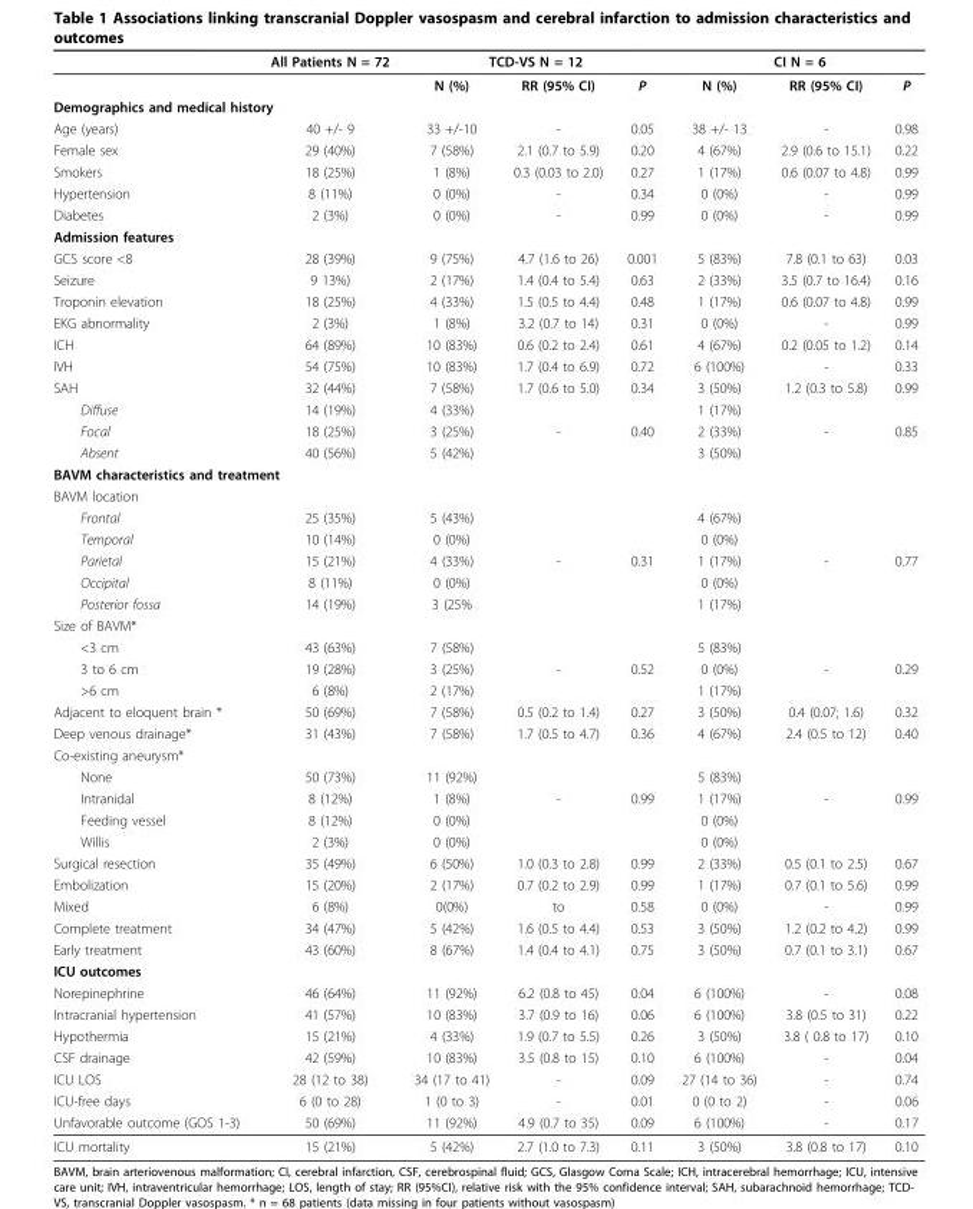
<table><thead><tr><td rowspan="2"></td><td rowspan="2">All Patients N = 72</td><td colspan="3">TCD-VS N = 12</td><td colspan="3">CI N = 6</td></tr><tr><td>N (%)</td><td>RR (95% CI)</td><td>P</td><td>N (%)</td><td>RR (95% CI)</td><td>P</td></tr></thead><tbody><tr><td colspan="8">Demographics and medical history</td></tr><tr><td>Age (years)</td><td>40 +/- 9</td><td>33 +/-10</td><td>-</td><td>0.05</td><td>38 +/- 13</td><td>-</td><td>0.98</td></tr><tr><td>Female sex</td><td>29 (40%)</td><td>7 (58%)</td><td>2.1 (0.7 to 5.9)</td><td>0.20</td><td>4 (67%)</td><td>2.9 (0.6 to 15.1)</td><td>0.22</td></tr><tr><td>Smokers</td><td>18 (25%)</td><td>1 (8%)</td><td>0.3 (0.03 to 2.0)</td><td>0.27</td><td>1 (17%)</td><td>0.6 (0.07 to 4.8)</td><td>0.99</td></tr><tr><td>Hypertension</td><td>8 (11%)</td><td>0 (0%)</td><td>-</td><td>0.34</td><td>0 (0%)</td><td>-</td><td>0.99</td></tr><tr><td>Diabetes</td><td>2 (3%)</td><td>0 (0%)</td><td>-</td><td>0.99</td><td>0 (0%)</td><td>-</td><td>0.99</td></tr><tr><td colspan="8">Admission features</td></tr><tr><td>GCS score &lt;8</td><td>28 (39%)</td><td>9 (75%)</td><td>4.7 (1.6 to 26)</td><td>0.001</td><td>5 (83%)</td><td>7.8 (0.1 to 63)</td><td>0.03</td></tr><tr><td>Seizure</td><td>9 13%)</td><td>2 (17%)</td><td>1.4 (0.4 to 5.4)</td><td>0.63</td><td>2 (33%)</td><td>3.5 (0.7 to 16.4)</td><td>0.16</td></tr><tr><td>Troponin elevation</td><td>18 (25%)</td><td>4 (33%)</td><td>1.5 (0.5 to 4.4)</td><td>0.48</td><td>1 (17%)</td><td>0.6 (0.07 to 4.8)</td><td>0.99</td></tr><tr><td>EKG abnormality</td><td>2 (3%)</td><td>1 (8%)</td><td>3.2 (0.7 to 14)</td><td>0.31</td><td>0 (0%)</td><td>-</td><td>0.99</td></tr><tr><td>ICH</td><td>64 (89%)</td><td>10 (83%)</td><td>0.6 (0.2 to 2.4)</td><td>0.61</td><td>4 (67%)</td><td>0.2 (0.05 to 1.2)</td><td>0.14</td></tr><tr><td>IVH</td><td>54 (75%)</td><td>10 (83%)</td><td>1.7 (0.4 to 6.9)</td><td>0.72</td><td>6 (100%)</td><td>-</td><td>0.33</td></tr><tr><td>SAH</td><td>32 (44%)</td><td>7 (58%)</td><td>1.7 (0.6 to 5.0)</td><td>0.34</td><td>3 (50%)</td><td>1.2 (0.3 to 5.8)</td><td>0.99</td></tr><tr><td>Diffuse</td><td>14 (19%)</td><td>4 (33%)</td><td></td><td></td><td>1 (17%)</td><td></td><td></td></tr><tr><td>Focal</td><td>18 (25%)</td><td>3 (25%)</td><td>-</td><td>0.40</td><td>2 (33%)</td><td>-</td><td>0.85</td></tr><tr><td>Absent</td><td>40 (56%)</td><td>5 (42%)</td><td></td><td></td><td>3 (50%)</td><td></td><td></td></tr><tr><td colspan="8">BAVM characteristics and treatment</td></tr><tr><td colspan="8">BAVM location</td></tr><tr><td>Frontal</td><td>25 (35%)</td><td>5 (43%)</td><td></td><td></td><td>4 (67%)</td><td></td><td></td></tr><tr><td>Temporal</td><td>10 (14%)</td><td>0 (0%)</td><td></td><td></td><td>0 (0%)</td><td></td><td></td></tr><tr><td>Parietal</td><td>15 (21%)</td><td>4 (33%)</td><td>-</td><td>0.31</td><td>1 (17%)</td><td>-</td><td>0.77</td></tr><tr><td>Occipital</td><td>8 (11%)</td><td>0 (0%)</td><td></td><td></td><td>0 (0%)</td><td></td><td></td></tr><tr><td>Posterior fossa</td><td>14 (19%)</td><td>3 (25%</td><td></td><td></td><td>1 (17%)</td><td></td><td></td></tr><tr><td colspan="8">Size of BAVM*</td></tr><tr><td>&lt;3 cm</td><td>43 (63%)</td><td>7 (58%)</td><td></td><td></td><td>5 (83%)</td><td></td><td></td></tr><tr><td>3 to 6 cm</td><td>19 (28%)</td><td>3 (25%)</td><td>-</td><td>0.52</td><td>0 (0%)</td><td>-</td><td>0.29</td></tr><tr><td>&gt;6 cm</td><td>6 (8%)</td><td>2 (17%)</td><td></td><td></td><td>1 (17%)</td><td></td><td></td></tr><tr><td>Adjacent to eloquent brain *</td><td>50 (69%)</td><td>7 (58%)</td><td>0.5 (0.2 to 1.4)</td><td>0.27</td><td>3 (50%)</td><td>0.4 (0.07; 1.6)</td><td>0.32</td></tr><tr><td>Deep venous drainage*</td><td>31 (43%)</td><td>7 (58%)</td><td>1.7 (0.5 to 4.7)</td><td>0.36</td><td>4 (67%)</td><td>2.4 (0.5 to 12)</td><td>0.40</td></tr><tr><td colspan="8">Co-existing aneurysm*</td></tr><tr><td>None</td><td>50 (73%)</td><td>11 (92%)</td><td></td><td></td><td>5 (83%)</td><td></td><td></td></tr><tr><td>Intranidal</td><td>8 (12%)</td><td>1 (8%)</td><td>-</td><td>0.99</td><td>1 (17%)</td><td>-</td><td>0.99</td></tr><tr><td>Feeding vessel</td><td>8 (12%)</td><td>0 (0%)</td><td></td><td></td><td>0 (0%)</td><td></td><td></td></tr><tr><td>Willis</td><td>2 (3%)</td><td>0 (0%)</td><td></td><td></td><td>0 (0%)</td><td></td><td></td></tr><tr><td>Surgical resection</td><td>35 (49%)</td><td>6 (50%)</td><td>1.0 (0.3 to 2.8)</td><td>0.99</td><td>2 (33%)</td><td>0.5 (0.1 to 2.5)</td><td>0.67</td></tr><tr><td>Embolization</td><td>15 (20%)</td><td>2 (17%)</td><td>0.7 (0.2 to 2.9)</td><td>0.99</td><td>1 (17%)</td><td>0.7 (0.1 to 5.6)</td><td>0.99</td></tr><tr><td>Mixed</td><td>6 (8%)</td><td>0(0%)</td><td>to</td><td>0.58</td><td>0 (0%)</td><td>-</td><td>0.99</td></tr><tr><td>Complete treatment</td><td>34 (47%)</td><td>5 (42%)</td><td>1.6 (0.5 to 4.4)</td><td>0.53</td><td>3 (50%)</td><td>1.2 (0.2 to 4.2)</td><td>0.99</td></tr><tr><td>Early treatment</td><td>43 (60%)</td><td>8 (67%)</td><td>1.4 (0.4 to 4.1)</td><td>0.75</td><td>3 (50%)</td><td>0.7 (0.1 to 3.1)</td><td>0.67</td></tr><tr><td colspan="8">ICU outcomes</td></tr><tr><td>Norepinephrine</td><td>46 (64%)</td><td>11 (92%)</td><td>6.2 (0.8 to 45)</td><td>0.04</td><td>6 (100%)</td><td>-</td><td>0.08</td></tr><tr><td>Intracranial hypertension</td><td>41 (57%)</td><td>10 (83%)</td><td>3.7 (0.9 to 16)</td><td>0.06</td><td>6 (100%)</td><td>3.8 (0.5 to 31)</td><td>0.22</td></tr><tr><td>Hypothermia</td><td>15 (21%)</td><td>4 (33%)</td><td>1.9 (0.7 to 5.5)</td><td>0.26</td><td>3 (50%)</td><td>3.8 ( 0.8 to 17)</td><td>0.10</td></tr><tr><td>CSF drainage</td><td>42 (59%)</td><td>10 (83%)</td><td>3.5 (0.8 to 15)</td><td>0.10</td><td>6 (100%)</td><td>-</td><td>0.04</td></tr><tr><td>ICU LOS</td><td>28 (12 to 38)</td><td>34 (17 to 41)</td><td>-</td><td>0.09</td><td>27 (14 to 36)</td><td>-</td><td>0.74</td></tr><tr><td>ICU-free days</td><td>6 (0 to 28)</td><td>1 (0 to 3)</td><td>-</td><td>0.01</td><td>0 (0 to 2)</td><td>-</td><td>0.06</td></tr><tr><td>Unfavorable outcome (GOS 1-3)</td><td>50 (69%)</td><td>11 (92%)</td><td>4.9 (0.7 to 35)</td><td>0.09</td><td>6 (100%)</td><td>-</td><td>0.17</td></tr><tr><td>ICU mortality</td><td>15 (21%)</td><td>5 (42%)</td><td>2.7 (1.0 to 7.3)</td><td>0.11</td><td>3 (50%)</td><td>3.8 (0.8 to 17)</td><td>0.10</td></tr></tbody></table>